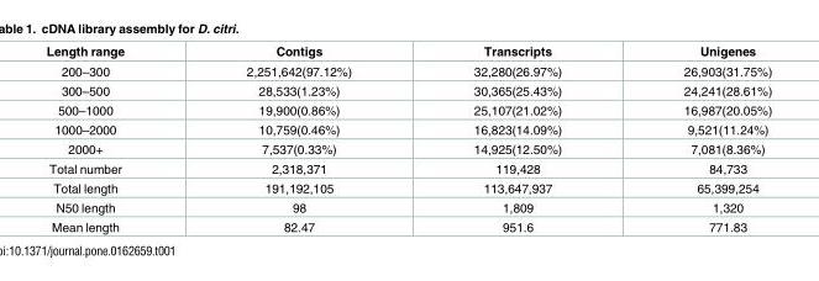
<table><thead><tr><td>Length range</td><td>Contigs</td><td>Transcripts</td><td>Unigenes</td></tr></thead><tbody><tr><td>200–300</td><td>2,251,642(97.12%)</td><td>32,280(26.97%)</td><td>26,903(31.75%)</td></tr><tr><td>300–500</td><td>28,533(1.23%)</td><td>30,365(25.43%)</td><td>24,241(28.61%)</td></tr><tr><td>500–1000</td><td>19,900(0.86%)</td><td>25,107(21.02%)</td><td>16,987(20.05%)</td></tr><tr><td>1000–2000</td><td>10,759(0.46%)</td><td>16,823(14.09%)</td><td>9,521(11.24%)</td></tr><tr><td>2000+</td><td>7,537(0.33%)</td><td>14,925(12.50%)</td><td>7,081(8.36%)</td></tr><tr><td>Total number</td><td>2,318,371</td><td>119,428</td><td>84,733</td></tr><tr><td>Total length</td><td>191,192,105</td><td>113,647,937</td><td>65,399,254</td></tr><tr><td>N50 length</td><td>98</td><td>1,809</td><td>1,320</td></tr><tr><td>Mean length</td><td>82.47</td><td>951.6</td><td>771.83</td></tr></tbody></table>